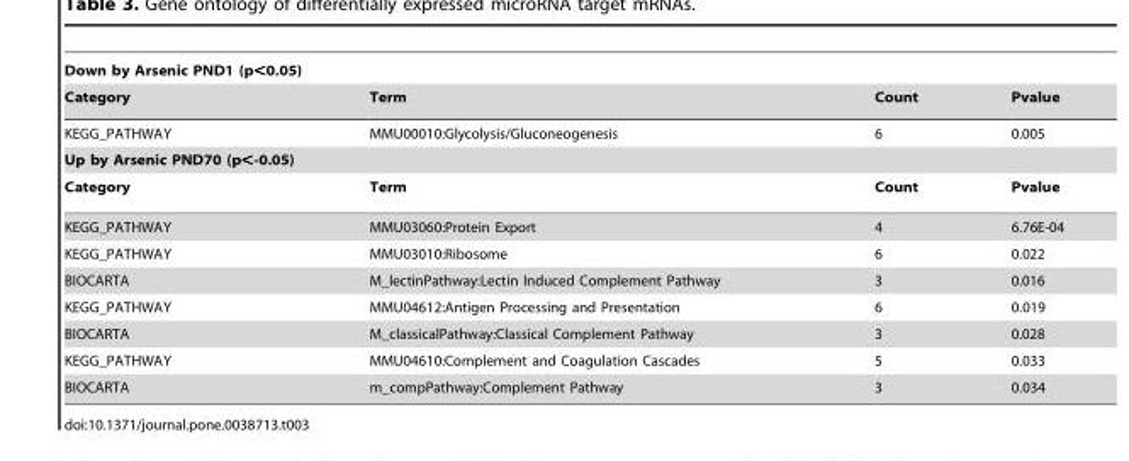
<table><thead><tr><td colspan="4">Down by Arsenic PND1 (p&lt;0.05)</td></tr><tr><td>Category</td><td>Term</td><td>Count</td><td>Pvalue</td></tr></thead><tbody><tr><td>KEGG_PATHWAY</td><td>MMU00010:Glycolysis/Gluconeogenesis</td><td>6</td><td>0.005</td></tr><tr><td colspan="4">Up by Arsenic PND70 (p,-0.05)</td></tr><tr><td>Category</td><td>Term</td><td>Count</td><td>Pvalue</td></tr><tr><td>KEGG_PATHWAY</td><td>MMU03060:Protein Export</td><td>4</td><td>6.76E-04</td></tr><tr><td>KEGG_PATHWAY</td><td>MMU03010:Ribosome</td><td>6</td><td>0.022</td></tr><tr><td>BIOCARTA</td><td>M_lectinPathway:Lectin Induced Complement Pathway</td><td>3</td><td>0.016</td></tr><tr><td>KEGG_PATHWAY</td><td>MMU04612:Antigen Processing and Presentation</td><td>6</td><td>0.019</td></tr><tr><td>BIOCARTA</td><td>M_classicalPathway:Classical Complement Pathway</td><td>3</td><td>0.028</td></tr><tr><td>KEGG_PATHWAY</td><td>MMU04610:Complement and Coagulation Cascades</td><td>5</td><td>0.033</td></tr><tr><td>BIOCARTA</td><td>m_compPathway:Complement Pathway</td><td>3</td><td>0.034</td></tr></tbody></table>